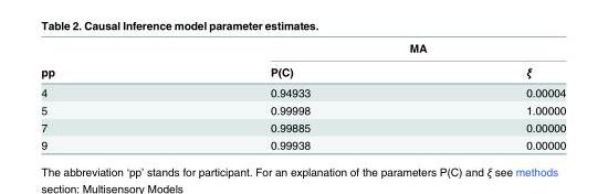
<table><thead><tr><td rowspan="2">pp</td><td colspan="2">MA</td></tr><tr><td>P(C)</td><td>ξ</td></tr></thead><tbody><tr><td>4</td><td>0.94933</td><td>0.00004</td></tr><tr><td>5</td><td>0.99998</td><td>1.00000</td></tr><tr><td>7</td><td>0.99885</td><td>0.00000</td></tr><tr><td>9</td><td>0.99938</td><td>0.00000</td></tr></tbody></table>